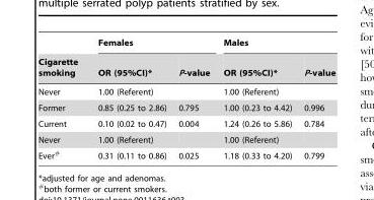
<table><thead><tr><td rowspan="2">Cigarette smoking</td><td colspan="2">Females</td><td colspan="2">Males</td></tr><tr><td>OR (95%CI)*</td><td>P-value</td><td>OR (95%CI)*</td><td>P-value</td></tr></thead><tbody><tr><td>Never</td><td>1.00 (Referent)</td><td></td><td>1.00 (Referent)</td><td></td></tr><tr><td>Former</td><td>0.85 (0.25 to 2.86)</td><td>0.795</td><td>1.00 (0.23 to 4.42)</td><td>0.996</td></tr><tr><td>Current</td><td>0.10 (0.02 to 0.47)</td><td>0.004</td><td>1.24 (0.26 to 5.86)</td><td>0.784</td></tr><tr><td>Never</td><td>1.00 (Referent)</td><td></td><td>1.00 (Referent)</td><td></td></tr><tr><td>Ever#</td><td>0.31 (0.11 to 0.86)</td><td>0.025</td><td>1.18 (0.33 to 4.20)</td><td>0.799</td></tr></tbody></table>